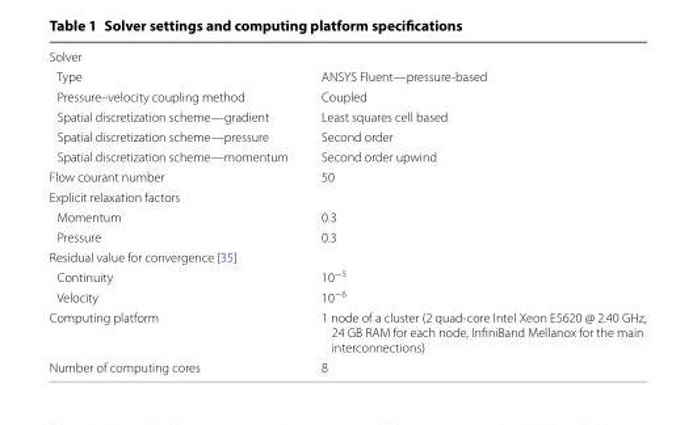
<table><tbody><tr><td colspan="2">Solver</td></tr><tr><td>Type</td><td>ANSYS Fluent—pressure-based</td></tr><tr><td>Pressure–velocity coupling method</td><td>Coupled</td></tr><tr><td>Spatial discretization scheme—gradient</td><td>Least squares cell based</td></tr><tr><td>Spatial discretization scheme—pressure</td><td>Second order</td></tr><tr><td>Spatial discretization scheme—momentum</td><td>Second order upwind</td></tr><tr><td>Flow courant number</td><td>50</td></tr><tr><td colspan="2">Explicit relaxation factors</td></tr><tr><td>Momentum</td><td>0.3</td></tr><tr><td>Pressure</td><td>0.3</td></tr><tr><td colspan="2">Residual value for convergence [35]</td></tr><tr><td>Continuity</td><td>10<sup>−5</sup></td></tr><tr><td>Velocity</td><td>10<sup>−6</sup></td></tr><tr><td>Computing platform</td><td>1 node of a cluster (2 quad-core Intel Xeon E5620 @ 2.40 GHz, 24 GB RAM for each node, InfiniBand Mellanox for the main interconnections)</td></tr><tr><td>Number of computing cores</td><td>8</td></tr></tbody></table>